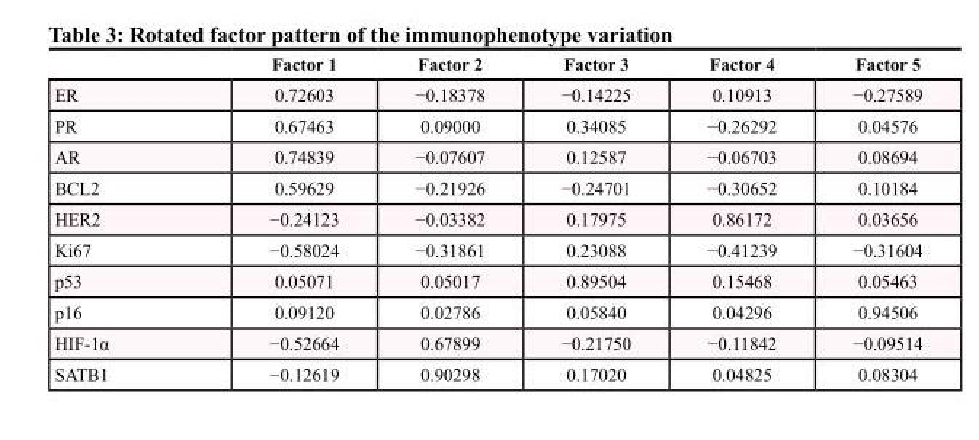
<table><thead><tr><td></td><td>Factor 1</td><td>Factor 2</td><td>Factor 3</td><td>Factor 4</td><td>Factor 5</td></tr></thead><tbody><tr><td>ER</td><td>0.72603</td><td>−0.18378</td><td>−0.14225</td><td>0.10913</td><td>−0.27589</td></tr><tr><td>PR</td><td>0.67463</td><td>0.09000</td><td>0.34085</td><td>−0.26292</td><td>0.04576</td></tr><tr><td>AR</td><td>0.74839</td><td>−0.07607</td><td>0.12587</td><td>−0.06703</td><td>0.08694</td></tr><tr><td>BCL2</td><td>0.59629</td><td>−0.21926</td><td>−0.24701</td><td>−0.30652</td><td>0.10184</td></tr><tr><td>HER2</td><td>−0.24123</td><td>−0.03382</td><td>0.17975</td><td>0.86172</td><td>0.03656</td></tr><tr><td>Ki67</td><td>−0.58024</td><td>−0.31861</td><td>0.23088</td><td>−0.41239</td><td>−0.31604</td></tr><tr><td>p53</td><td>0.05071</td><td>0.05017</td><td>0.89504</td><td>0.15468</td><td>0.05463</td></tr><tr><td>p16</td><td>0.09120</td><td>0.02786</td><td>0.05840</td><td>0.04296</td><td>0.94506</td></tr><tr><td>HIF-1α</td><td>−0.52664</td><td>0.67899</td><td>−0.21750</td><td>−0.11842</td><td>−0.09514</td></tr><tr><td>SATB1</td><td>−0.12619</td><td>0.90298</td><td>0.17020</td><td>0.04825</td><td>0.08304</td></tr></tbody></table>